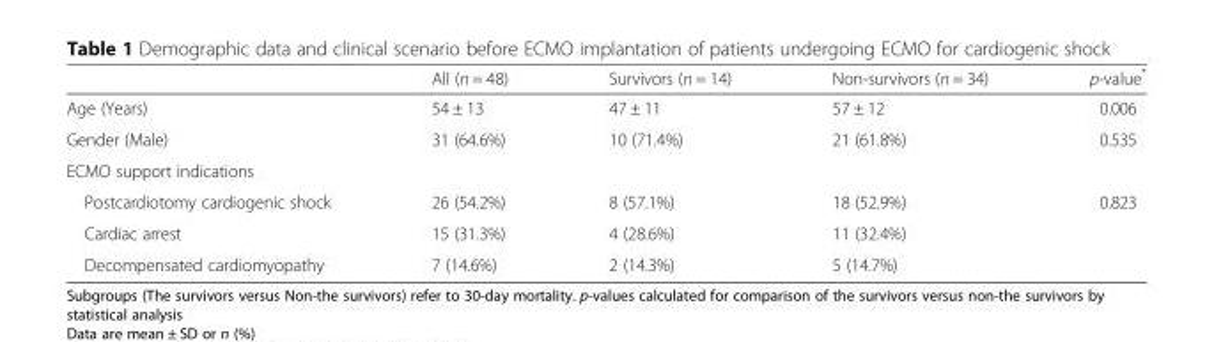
<table><thead><tr><td></td><td>All (n = 48)</td><td>Survivors (n = 14)</td><td>Non-survivors (n = 34)</td><td>p-value*</td></tr></thead><tbody><tr><td>Age (Years)</td><td>54 ± 13</td><td>47 ± 11</td><td>57 ± 12</td><td>0.006</td></tr><tr><td>Gender (Male)</td><td>31 (64.6%)</td><td>10 (71.4%)</td><td>21 (61.8%)</td><td>0.535</td></tr><tr><td colspan="5">ECMO support indications</td></tr><tr><td>Postcardiotomy cardiogenic shock</td><td>26 (54.2%)</td><td>8 (57.1%)</td><td>18 (52.9%)</td><td rowspan="3">0.823</td></tr><tr><td>Cardiac arrest</td><td>15 (31.3%)</td><td>4 (28.6%)</td><td>11 (32.4%)</td></tr><tr><td>Decompensated cardiomyopathy</td><td>7 (14.6%)</td><td>2 (14.3%)</td><td>5 (14.7%)</td></tr></tbody></table>